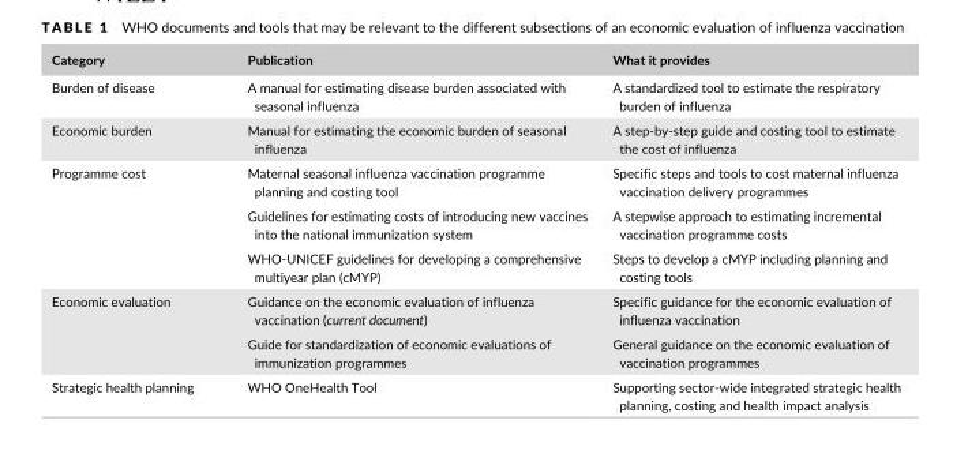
<table><thead><tr><td>Category</td><td>Publication</td><td>What it provides</td></tr></thead><tbody><tr><td>Burden of disease</td><td>A manual for estimating disease burden associated with seasonal influenza</td><td>A standardized tool to estimate the respiratory burden of influenza</td></tr><tr><td>Economic burden</td><td>Manual for estimating the economic burden of seasonal influenza</td><td>A step- by- step guide and costing tool to estimate the cost of influenza</td></tr><tr><td rowspan="3">Programme cost</td><td>Maternal seasonal influenza vaccination programme planning and costing tool</td><td>Specific steps and tools to cost maternal influenza vaccination delivery programmes</td></tr><tr><td>Guidelines for estimating costs of introducing new vaccines into the national immunization system</td><td>A stepwise approach to estimating incremental vaccination programme costs</td></tr><tr><td>WHO- UNICEF guidelines for developing a comprehensive multiyear plan (cMYP)</td><td>Steps to develop a cMYP including planning and costing tools</td></tr><tr><td rowspan="2">Economic evaluation</td><td>Guidance on the economic evaluation of influenza vaccination (current document)</td><td>Specific guidance for the economic evaluation of influenza vaccination</td></tr><tr><td>Guide for standardization of economic evaluations of immunization programmes</td><td>General guidance on the economic evaluation of vaccination programmes</td></tr><tr><td>Strategic health planning</td><td>WHO OneHealth Tool</td><td>Supporting sector- wide integrated strategic health planning, costing and health impact analysis</td></tr></tbody></table>